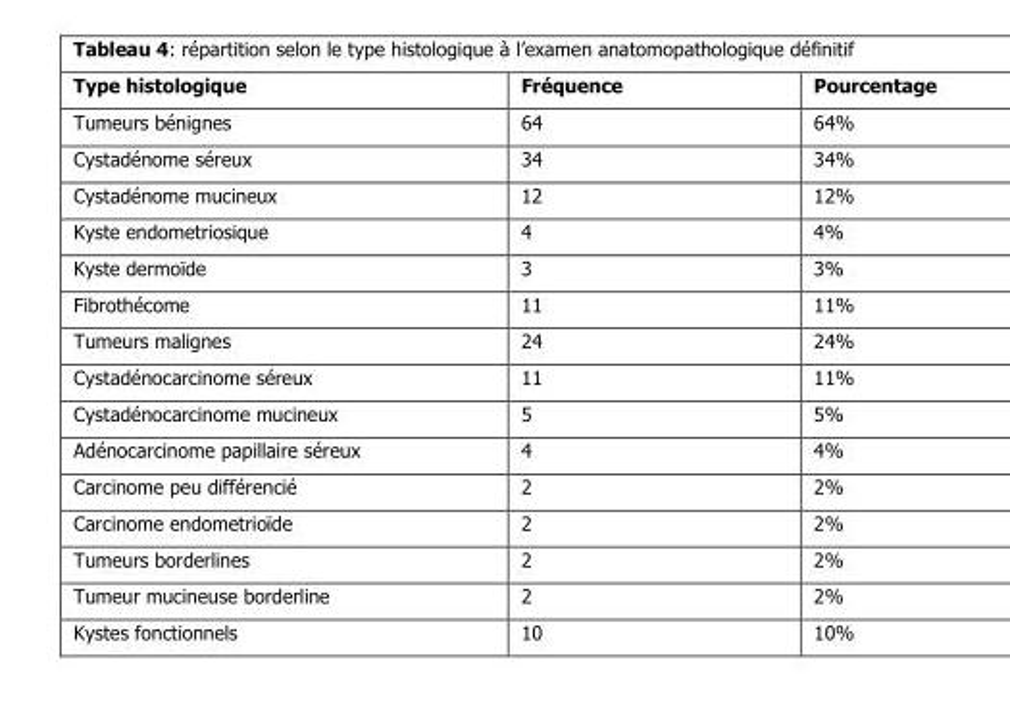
<table><thead><tr><td>Type histologique</td><td>Fréquence</td><td>Pourcentage</td></tr></thead><tbody><tr><td>Tumeurs bénignes</td><td>64</td><td>64%</td></tr><tr><td>Cystadénome séreux</td><td>34</td><td>34%</td></tr><tr><td>Cystadénome mucineux</td><td>12</td><td>12%</td></tr><tr><td>Kyste endometriosique</td><td>4</td><td>4%</td></tr><tr><td>Kyste dermoїde</td><td>3</td><td>3%</td></tr><tr><td>Fibrothécome</td><td>11</td><td>11%</td></tr><tr><td>Tumeurs malignes</td><td>24</td><td>24%</td></tr><tr><td>Cystadénocarcinome séreux</td><td>11</td><td>11%</td></tr><tr><td>Cystadénocarcinome mucineux</td><td>5</td><td>5%</td></tr><tr><td>Adénocarcinome papillaire séreux</td><td>4</td><td>4%</td></tr><tr><td>Carcinome peu différencié</td><td>2</td><td>2%</td></tr><tr><td>Carcinome endometrioїde</td><td>2</td><td>2%</td></tr><tr><td>Tumeurs borderlines</td><td>2</td><td>2%</td></tr><tr><td>Tumeur mucineuse borderline</td><td>2</td><td>2%</td></tr><tr><td>Kystes fonctionnels</td><td>10</td><td>10%</td></tr></tbody></table>